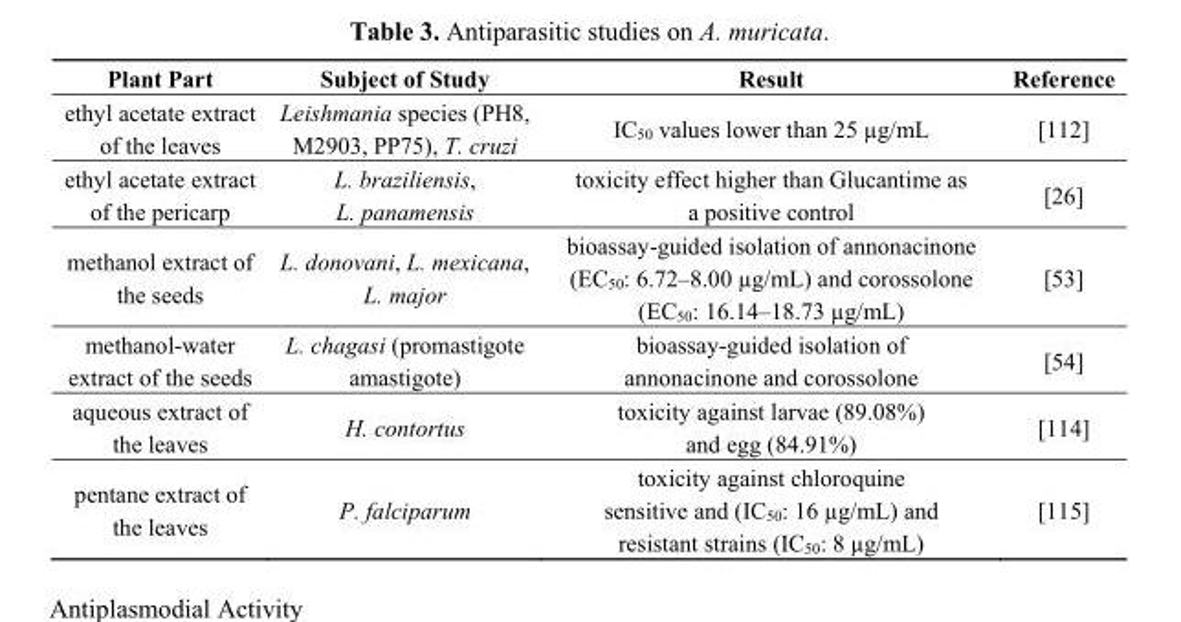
<table><thead><tr><td>Plant Part</td><td>Subject of Study</td><td>Result</td><td>Reference</td></tr></thead><tbody><tr><td>ethyl acetate extract of the leaves</td><td>Leishmania species (PH8, M2903, PP75), T. cruzi</td><td>IC<sub>50</sub> values lower than 25 µg/mL</td><td>[112]</td></tr><tr><td>ethyl acetate extract of the pericarp</td><td>L. braziliensis, L. panamensis</td><td>toxicity effect higher than Glucantime as a positive control</td><td>[26]</td></tr><tr><td>methanol extract of the seeds</td><td>L. donovani, L. mexicana, L. major</td><td>bioassay-guided isolation of annonacinone (EC<sub>50</sub>: 6.72–8.00 µg/mL) and corossolone (EC<sub>50</sub>: 16.14–18.73 µg/mL)</td><td>[53]</td></tr><tr><td>methanol-water extract of the seeds</td><td>L. chagasi (promastigote amastigote)</td><td>bioassay-guided isolation of annonacinone and corossolone</td><td>[54]</td></tr><tr><td>aqueous extract of the leaves</td><td>H. contortus</td><td>toxicity against larvae (89.08%) and egg (84.91%)</td><td>[114]</td></tr><tr><td>pentane extract of the leaves</td><td>P. falciparum</td><td>toxicity against chloroquine sensitive and (IC<sub>50</sub>: 16 µg/mL) and resistant strains (IC<sub>50</sub>: 8 µg/mL)</td><td>[115]</td></tr></tbody></table>